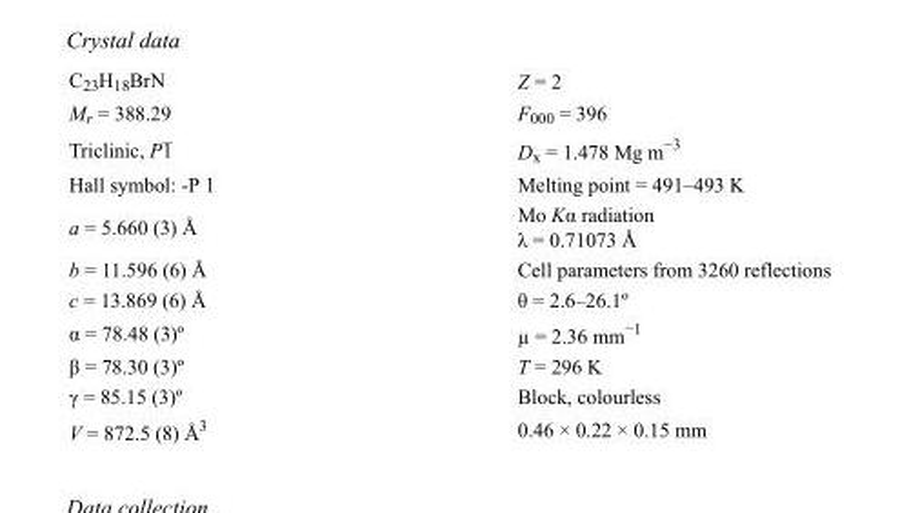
<table><tbody><tr><td>C<sub>23</sub>H<sub>18</sub>BrN</td><td>Z = 2</td></tr><tr><td>M<sub>r</sub> = 388.29</td><td>F000 = 396</td></tr><tr><td>Triclinic, P1</td><td>D<sub>x</sub> = 1.478 Mg m<sup>−3</sup></td></tr><tr><td>Hall symbol: -P 1</td><td>Melting point = 491–493 K</td></tr><tr><td>a = 5.660 (3) Å</td><td>Mo Kα radiation λ = 0.71073 Å</td></tr><tr><td>b = 11.596 (6) Å</td><td>Cell parameters from 3260 reflections</td></tr><tr><td>c = 13.869 (6) Å</td><td>θ = 2.6–26.1º</td></tr><tr><td>α = 78.48 (3)º</td><td>µ = 2.36 mm<sup>−1</sup></td></tr><tr><td>β = 78.30 (3)º</td><td>T = 296 K</td></tr><tr><td>γ = 85.15 (3)º</td><td>Block, colourless</td></tr><tr><td>V = 872.5 (8) Å<sup>3</sup></td><td>0.46 × 0.22 × 0.15 mm</td></tr></tbody></table>